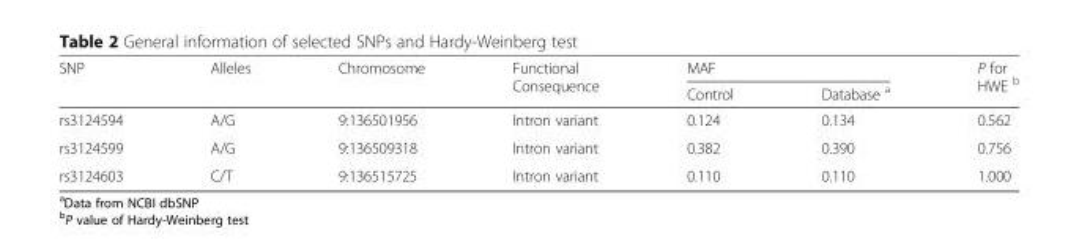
<table><thead><tr><td rowspan="2">SNP</td><td rowspan="2">Alleles</td><td rowspan="2">Chromosome</td><td rowspan="2">Functional Consequence</td><td colspan="2">MAF</td><td rowspan="2">P for HWE <sup>b</sup></td></tr><tr><td>Control</td><td>Database <sup>a</sup></td></tr></thead><tbody><tr><td>rs3124594</td><td>A/G</td><td>9:136501956</td><td>Intron variant</td><td>0.124</td><td>0.134</td><td>0.562</td></tr><tr><td>rs3124599</td><td>A/G</td><td>9:136509318</td><td>Intron variant</td><td>0.382</td><td>0.390</td><td>0.756</td></tr><tr><td>rs3124603</td><td>C/T</td><td>9:136515725</td><td>Intron variant</td><td>0.110</td><td>0.110</td><td>1.000</td></tr></tbody></table>